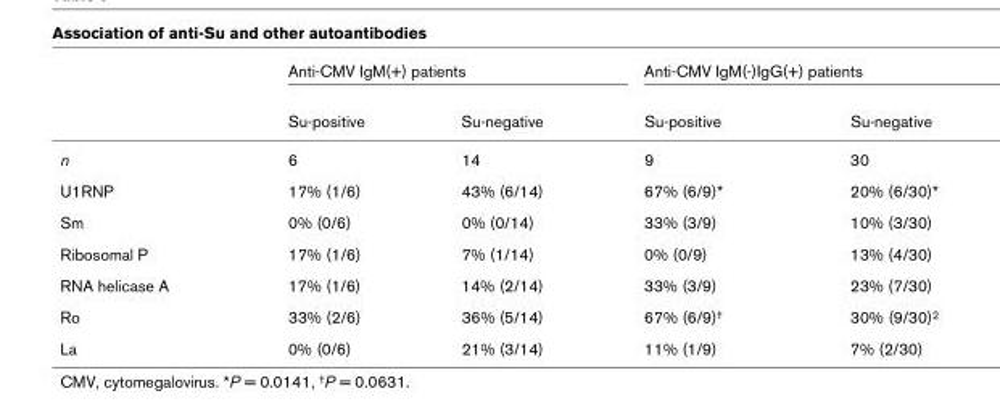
<table><thead><tr><td rowspan="2"></td><td colspan="2">Anti-CMV IgM(+) patients</td><td colspan="2">Anti-CMV IgM(-)IgG(+) patients</td></tr><tr><td>Su-positive</td><td>Su-negative</td><td>Su-positive</td><td>Su-negative</td></tr></thead><tbody><tr><td>n</td><td>6</td><td>14</td><td>9</td><td>30</td></tr><tr><td>U1RNP</td><td>17% (1/6)</td><td>43% (6/14)</td><td>67% (6/9)*</td><td>20% (6/30)*</td></tr><tr><td>Sm</td><td>0% (0/6)</td><td>0% (0/14)</td><td>33% (3/9)</td><td>10% (3/30)</td></tr><tr><td>Ribosomal P</td><td>17% (1/6)</td><td>7% (1/14)</td><td>0% (0/9)</td><td>13% (4/30)</td></tr><tr><td>RNA helicase A</td><td>17% (1/6)</td><td>14% (2/14)</td><td>33% (3/9)</td><td>23% (7/30)</td></tr><tr><td>Ro</td><td>33% (2/6)</td><td>36% (5/14)</td><td>67% (6/9)<sup>†</sup></td><td>30% (9/30)<sup>2</sup></td></tr><tr><td>La</td><td>0% (0/6)</td><td>21% (3/14)</td><td>11% (1/9)</td><td>7% (2/30)</td></tr></tbody></table>